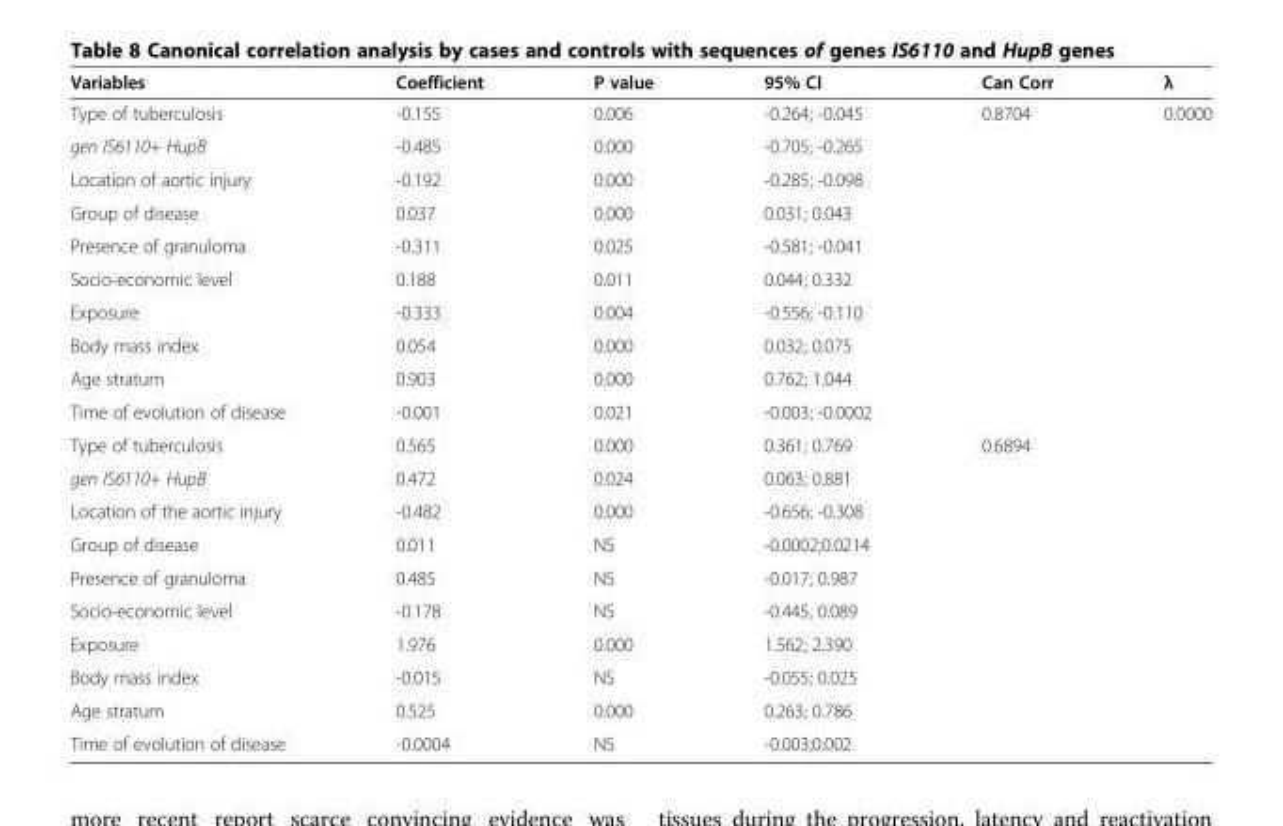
<table><thead><tr><td>Variables</td><td>Coefficient</td><td>P value</td><td>95% CI</td><td>Can Corr</td><td>λ</td></tr></thead><tbody><tr><td>Type of tuberculosis</td><td>-0.155</td><td>0.006</td><td>-0.264; -0.045</td><td>0.8704</td><td>0.0000</td></tr><tr><td>gen IS6110+ HupB</td><td>-0.485</td><td>0.000</td><td>-0.705; -0.265</td><td></td><td></td></tr><tr><td>Location of aortic injury</td><td>-0.192</td><td>0.000</td><td>-0.285; -0.098</td><td></td><td></td></tr><tr><td>Group of disease</td><td>0.037</td><td>0.000</td><td>0.031; 0.043</td><td></td><td></td></tr><tr><td>Presence of granuloma</td><td>-0.311</td><td>0.025</td><td>-0.581; -0.041</td><td></td><td></td></tr><tr><td>Socio-economic level</td><td>0.188</td><td>0.011</td><td>0.044; 0.332</td><td></td><td></td></tr><tr><td>Exposure</td><td>-0.333</td><td>0.004</td><td>-0.556; -0.110</td><td></td><td></td></tr><tr><td>Body mass index</td><td>0.054</td><td>0.000</td><td>0.032; 0.075</td><td></td><td></td></tr><tr><td>Age stratum</td><td>0.903</td><td>0.000</td><td>0.762; 1.044</td><td></td><td></td></tr><tr><td>Time of evolution of disease</td><td>-0.001</td><td>0.021</td><td>-0.003; -0.0002</td><td></td><td></td></tr><tr><td>Type of tuberculosis</td><td>0.565</td><td>0.000</td><td>0.361; 0.769</td><td>0.6894</td><td></td></tr><tr><td>gen IS6110+ HupB</td><td>0.472</td><td>0.024</td><td>0.063; 0.881</td><td></td><td></td></tr><tr><td>Location of the aortic injury</td><td>-0.482</td><td>0.000</td><td>-0.656; -0.308</td><td></td><td></td></tr><tr><td>Group of disease</td><td>0.011</td><td>NS</td><td>-0.0002;0.0214</td><td></td><td></td></tr><tr><td>Presence of granuloma</td><td>0.485</td><td>NS</td><td>-0.017; 0.987</td><td></td><td></td></tr><tr><td>Socio-economic level</td><td>-0.178</td><td>NS</td><td>-0.445, 0.089</td><td></td><td></td></tr><tr><td>Exposure</td><td>1.976</td><td>0.000</td><td>1.562; 2.390</td><td></td><td></td></tr><tr><td>Body mass index</td><td>-0.015</td><td>NS</td><td>-0.055; 0.025</td><td></td><td></td></tr><tr><td>Age stratum</td><td>0.525</td><td>0.000</td><td>0.263; 0.786</td><td></td><td></td></tr><tr><td>Time of evolution of disease</td><td>-0.0004</td><td>NS</td><td>-0.003;0.002</td><td></td><td></td></tr></tbody></table>